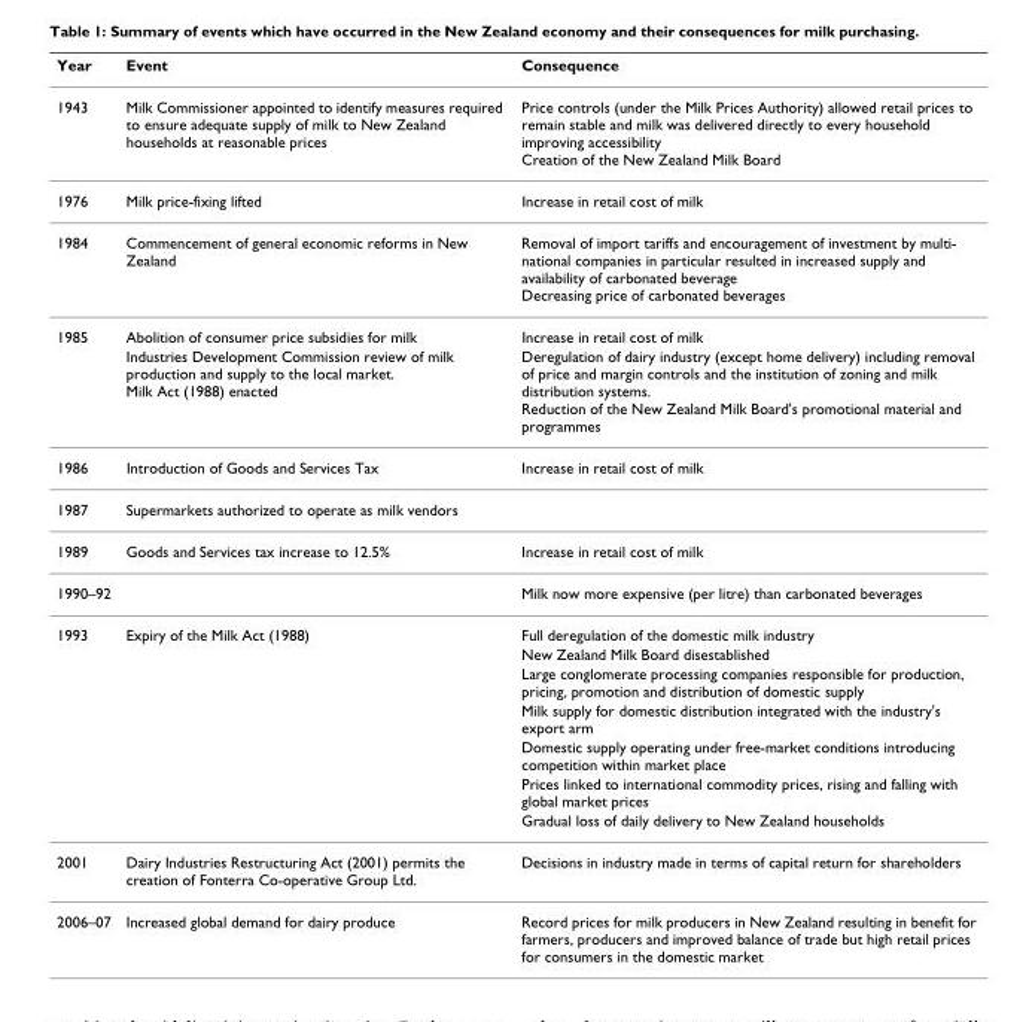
<table><thead><tr><td>Year</td><td>Event</td><td>Consequence</td></tr></thead><tbody><tr><td>1943</td><td>Milk Commissioner appointed to identify measures required to ensure adequate supply of milk to New Zealand households at reasonable prices</td><td>Price controls (under the Milk Prices Authority) allowed retail prices to remain stable and milk was delivered directly to every household improving accessibility Creation of the New Zealand Milk Board</td></tr><tr><td>1976</td><td>Milk price-fixing lifted</td><td>Increase in retail cost of milk</td></tr><tr><td>1984</td><td>Commencement of general economic reforms in New Zealand</td><td>Removal of import tariffs and encouragement of investment by multi- national companies in particular resulted in increased supply and availability of carbonated beverage Decreasing price of carbonated beverages</td></tr><tr><td rowspan="2">1985</td><td>Abolition of consumer price subsidies for milk</td><td>Increase in retail cost of milk</td></tr><tr><td>Industries Development Commission review of milk production and supply to the local market. Milk Act (1988) enacted</td><td>Deregulation of dairy industry (except home delivery) including removal of price and margin controls and the institution of zoning and milk distribution systems. Reduction of the New Zealand Milk Board&#x27;s promotional material and programmes</td></tr><tr><td>1986</td><td>Introduction of Goods and Services Tax</td><td>Increase in retail cost of milk</td></tr><tr><td>1987</td><td>Supermarkets authorized to operate as milk vendors</td><td></td></tr><tr><td>1989</td><td>Goods and Services tax increase to 12.5%</td><td>Increase in retail cost of milk</td></tr><tr><td>1990–92</td><td></td><td>Milk now more expensive (per litre) than carbonated beverages</td></tr><tr><td rowspan="7">1993</td><td>Expiry of the Milk Act (1988)</td><td>Full deregulation of the domestic milk industry</td></tr><tr><td></td><td>New Zealand Milk Board disestablished</td></tr><tr><td></td><td>Large conglomerate processing companies responsible for production, pricing, promotion and distribution of domestic supply</td></tr><tr><td></td><td>Milk supply for domestic distribution integrated with the industry&#x27;s export arm</td></tr><tr><td></td><td>Domestic supply operating under free-market conditions introducing competition within market place</td></tr><tr><td></td><td>Prices linked to international commodity prices, rising and falling with global market prices</td></tr><tr><td></td><td>Gradual loss of daily delivery to New Zealand households</td></tr><tr><td>2001</td><td>Dairy Industries Restructuring Act (2001) permits the creation of Fonterra Co-operative Group Ltd.</td><td>Decisions in industry made in terms of capital return for shareholders</td></tr><tr><td>2006–07</td><td>Increased global demand for dairy produce</td><td>Record prices for milk producers in New Zealand resulting in benefit for farmers, producers and improved balance of trade but high retail prices for consumers in the domestic market</td></tr></tbody></table>